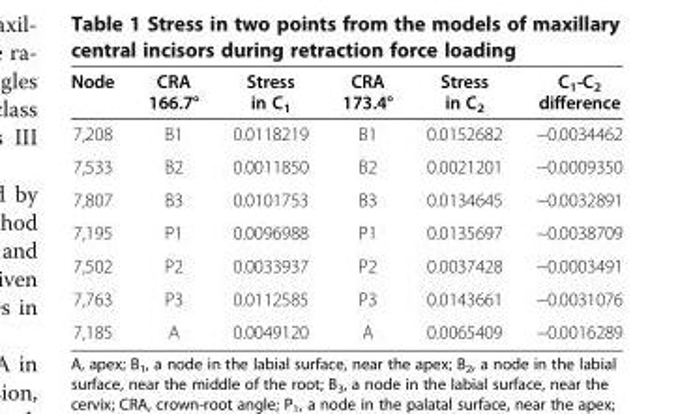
<table><thead><tr><td>Node</td><td>CRA 166.7°</td><td>Stress in C<sub>1</sub></td><td>CRA 173.4°</td><td>Stress in C<sub>2</sub></td><td>C<sub>1</sub>-C<sub>2</sub> difference</td></tr></thead><tbody><tr><td>7,208</td><td>B1</td><td>0.0118219</td><td>B1</td><td>0.0152682</td><td>−0.0034462</td></tr><tr><td>7,533</td><td>B2</td><td>0.0011850</td><td>B2</td><td>0.0021201</td><td>−0.0009350</td></tr><tr><td>7,807</td><td>B3</td><td>0.0101753</td><td>B3</td><td>0.0134645</td><td>−0.0032891</td></tr><tr><td>7,195</td><td>P1</td><td>0.0096988</td><td>P1</td><td>0.0135697</td><td>−0.0038709</td></tr><tr><td>7,502</td><td>P2</td><td>0.0033937</td><td>P2</td><td>0.0037428</td><td>−0.0003491</td></tr><tr><td>7,763</td><td>P3</td><td>0.0112585</td><td>P3</td><td>0.0143661</td><td>−0.0031076</td></tr><tr><td>7,185</td><td>A</td><td>0.0049120</td><td>A</td><td>0.0065409</td><td>−0.0016289</td></tr></tbody></table>